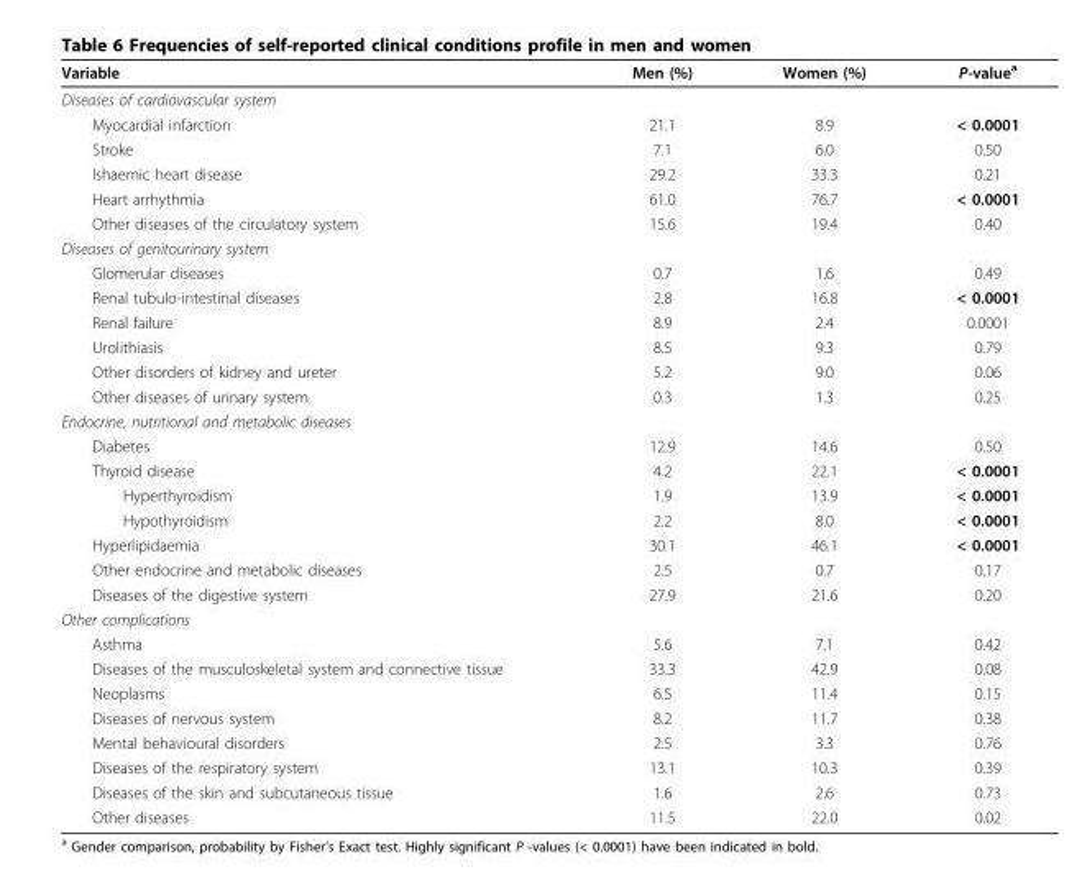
<table><thead><tr><td>Variable</td><td>Men (%)</td><td>Women (%)</td><td>P-value<sup>a</sup></td></tr></thead><tbody><tr><td colspan="4">Diseases of cardiovascular system</td></tr><tr><td>Myocardial infarction</td><td>21.1</td><td>8.9</td><td>&lt; 0.0001</td></tr><tr><td>Stroke</td><td>7.1</td><td>6.0</td><td>0.50</td></tr><tr><td>Ishaemic heart disease</td><td>29.2</td><td>33.3</td><td>0.21</td></tr><tr><td>Heart arrhythmia</td><td>61.0</td><td>76.7</td><td>&lt; 0.0001</td></tr><tr><td>Other diseases of the circulatory system</td><td>15.6</td><td>19.4</td><td>0.40</td></tr><tr><td colspan="4">Diseases of genitourinary system</td></tr><tr><td>Glomerular diseases</td><td>0.7</td><td>1.6</td><td>0.49</td></tr><tr><td>Renal tubulo-intestinal diseases</td><td>2.8</td><td>16.8</td><td>&lt; 0.0001</td></tr><tr><td>Renal failure</td><td>8.9</td><td>2.4</td><td>0.0001</td></tr><tr><td>Urolithiasis</td><td>8.5</td><td>9.3</td><td>0.79</td></tr><tr><td>Other disorders of kidney and ureter</td><td>5.2</td><td>9.0</td><td>0.06</td></tr><tr><td>Other diseases of urinary system</td><td>0.3</td><td>1.3</td><td>0.25</td></tr><tr><td colspan="4">Endocrine, nutritional and metabolic diseases</td></tr><tr><td>Diabetes</td><td>12.9</td><td>14.6</td><td>0.50</td></tr><tr><td>Thyroid disease</td><td>4.2</td><td>22.1</td><td>&lt; 0.0001</td></tr><tr><td>Hyperthyroidism</td><td>1.9</td><td>13.9</td><td>&lt; 0.0001</td></tr><tr><td>Hypothyroidism</td><td>2.2</td><td>8.0</td><td>&lt; 0.0001</td></tr><tr><td>Hyperlipidaemia</td><td>30.1</td><td>46.1</td><td>&lt; 0.0001</td></tr><tr><td>Other endocrine and metabolic diseases</td><td>2.5</td><td>0.7</td><td>0.17</td></tr><tr><td>Diseases of the digestive system</td><td>27.9</td><td>21.6</td><td>0.20</td></tr><tr><td colspan="4">Other complications</td></tr><tr><td>Asthma</td><td>5.6</td><td>7.1</td><td>0.42</td></tr><tr><td>Diseases of the musculoskeletal system and connective tissue</td><td>33.3</td><td>42.9</td><td>0.08</td></tr><tr><td>Neoplasms</td><td>6.5</td><td>11.4</td><td>0.15</td></tr><tr><td>Diseases of nervous system</td><td>8.2</td><td>11.7</td><td>0.38</td></tr><tr><td>Mental behavioural disorders</td><td>2.5</td><td>3.3</td><td>0.76</td></tr><tr><td>Diseases of the respiratory system</td><td>13.1</td><td>10.3</td><td>0.39</td></tr><tr><td>Diseases of the skin and subcutaneous tissue</td><td>1.6</td><td>2.6</td><td>0.73</td></tr><tr><td>Other diseases</td><td>11.5</td><td>22.0</td><td>0.02</td></tr></tbody></table>